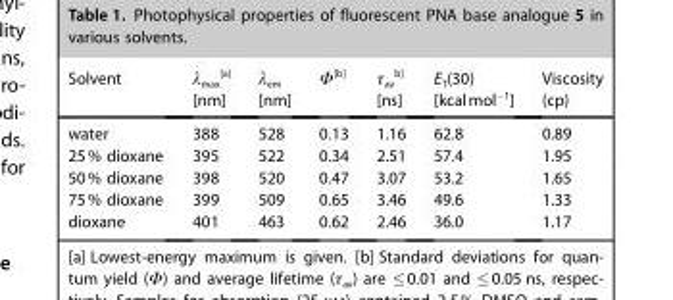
<table><thead><tr><td rowspan="2">Solvent</td><td rowspan="2">λ<sub>max</sub> <sup>[a]</sup> [nm]</td><td rowspan="2">λ<sub>em</sub> [nm]</td><td rowspan="2">Φ<sup>[b]</sup></td><td rowspan="2">τ<sub>av</sub> <sup>b]</sup> [ns]</td><td rowspan="2">E<sub>T</sub>(30) [kcalmol<sup>−1</sup>]</td><td rowspan="2">Viscosity (cp)</td></tr><tr></tr></thead><tbody><tr><td>water</td><td>388</td><td>528</td><td>0.13</td><td>1.16</td><td>62.8</td><td>0.89</td></tr><tr><td>25% dioxane</td><td>395</td><td>522</td><td>0.34</td><td>2.51</td><td>57.4</td><td>1.95</td></tr><tr><td>50% dioxane</td><td>398</td><td>520</td><td>0.47</td><td>3.07</td><td>53.2</td><td>1.65</td></tr><tr><td>75% dioxane</td><td>399</td><td>509</td><td>0.65</td><td>3.46</td><td>49.6</td><td>1.33</td></tr><tr><td>dioxane</td><td>401</td><td>463</td><td>0.62</td><td>2.46</td><td>36.0</td><td>1.17</td></tr></tbody></table>